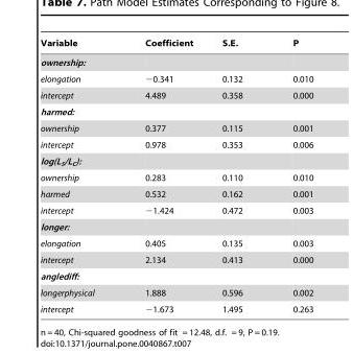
<table><thead><tr><td>Variable</td><td>Coefficient</td><td>S.E.</td><td>P</td></tr></thead><tbody><tr><td colspan="4">ownership:</td></tr><tr><td>elongation</td><td>−0.341</td><td>0.132</td><td>0.010</td></tr><tr><td>intercept</td><td>4.489</td><td>0.358</td><td>0.000</td></tr><tr><td colspan="4">harmed:</td></tr><tr><td>ownership</td><td>0.377</td><td>0.115</td><td>0.001</td></tr><tr><td>intercept</td><td>0.978</td><td>0.353</td><td>0.006</td></tr><tr><td colspan="4">log(L<sub>S</sub>/L<sub>C</sub>):</td></tr><tr><td>ownership</td><td>0.283</td><td>0.110</td><td>0.010</td></tr><tr><td>harmed</td><td>0.532</td><td>0.162</td><td>0.001</td></tr><tr><td>intercept</td><td>−1.424</td><td>0.472</td><td>0.003</td></tr><tr><td colspan="4">longer:</td></tr><tr><td>elongation</td><td>0.405</td><td>0.135</td><td>0.003</td></tr><tr><td>intercept</td><td>2.134</td><td>0.413</td><td>0.000</td></tr><tr><td colspan="4">anglediff:</td></tr><tr><td>longerphysical</td><td>1.888</td><td>0.596</td><td>0.002</td></tr><tr><td>intercept</td><td>−1.673</td><td>1.495</td><td>0.263</td></tr></tbody></table>